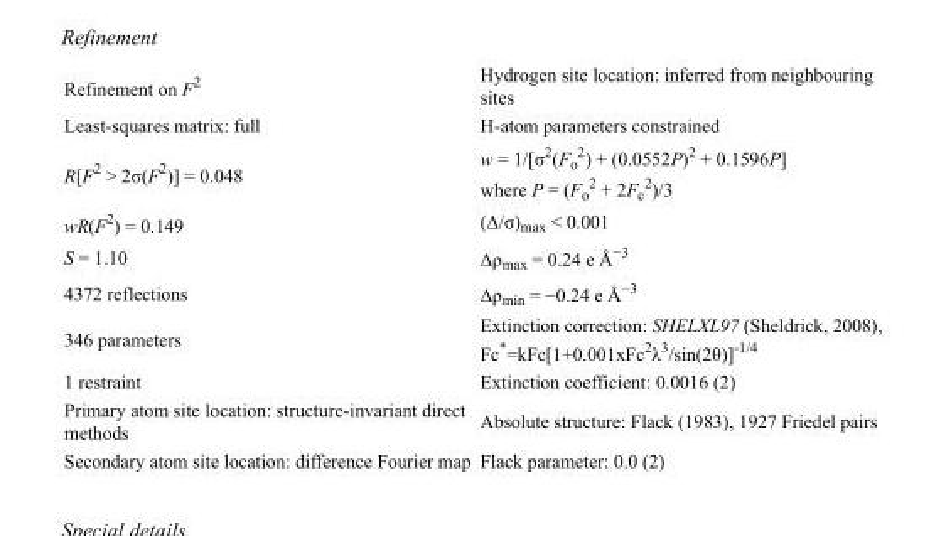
<table><tbody><tr><td>Refinement on F<sup>2</sup></td><td>Hydrogen site location: inferred from neighbouring sites</td></tr><tr><td>Least-squares matrix: full</td><td>H-atom parameters constrained</td></tr><tr><td>R[F<sup>2</sup> &gt; 2σ(F<sup>2</sup>)] = 0.048</td><td>w = 1/[σ<sup>2</sup>(F<sub>o</sub> <sup>2</sup>) + (0.0552P)<sup>2</sup> + 0.1596P] where P = (F<sub>o</sub> <sup>2</sup> + 2F<sub>c</sub> <sup>2</sup>)/3</td></tr><tr><td>wR(F<sup>2</sup>) = 0.149</td><td>(Δ/σ)<sub>max</sub> &lt; 0.001</td></tr><tr><td>S = 1.10</td><td>Δρ<sub>max</sub> = 0.24 e Å<sup>−3</sup></td></tr><tr><td>4372 reflections</td><td>Δρ<sub>min</sub> = −0.24 e Å<sup>−3</sup></td></tr><tr><td>346 parameters</td><td>Extinction correction: SHELXL97 (Sheldrick, 2008), Fc*=kFc[1+0.001xFc<sup>2</sup>λ<sup>3</sup>/sin(2θ)]<sup>-1/4</sup></td></tr><tr><td>1 restraint</td><td>Extinction coefficient: 0.0016 (2)</td></tr><tr><td>Primary atom site location: structure-invariant direct methods</td><td>Absolute structure: Flack (1983), 1927 Friedel pairs</td></tr><tr><td>Secondary atom site location: difference Fourier map</td><td>Flack parameter: 0.0 (2)</td></tr></tbody></table>